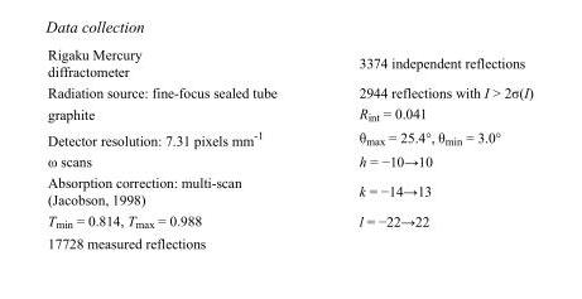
<table><tbody><tr><td>Rigaku Mercury diffractometer</td><td>3374 independent reflections</td></tr><tr><td>Radiation source: fine-focus sealed tube</td><td>2944 reflections with I &gt; 2σ(I)</td></tr><tr><td>graphite</td><td>R<sub>int</sub> = 0.041</td></tr><tr><td>Detector resolution: 7.31 pixels mm<sup>-1</sup></td><td>θ<sub>max</sub> = 25.4°, θ<sub>min</sub> = 3.0°</td></tr><tr><td>ω scans</td><td>h = −10→10</td></tr><tr><td>Absorption correction: multi-scan (Jacobson, 1998)</td><td>k = −14→13</td></tr><tr><td>T<sub>min</sub> = 0.814, T<sub>max</sub> = 0.988</td><td>l = −22→22</td></tr><tr><td>17728 measured reflections</td><td></td></tr></tbody></table>